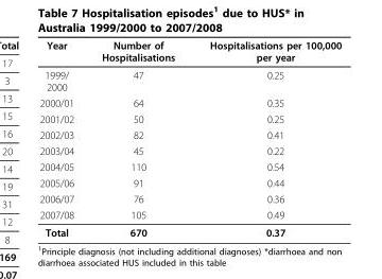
<table><thead><tr><td>Year</td><td>Number of Hospitalisations</td><td>Hospitalisations per 100,000 per year</td></tr></thead><tbody><tr><td>1999/ 2000</td><td>47</td><td>0.25</td></tr><tr><td>2000/01</td><td>64</td><td>0.35</td></tr><tr><td>2001/02</td><td>50</td><td>0.25</td></tr><tr><td>2002/03</td><td>82</td><td>0.41</td></tr><tr><td>2003/04</td><td>45</td><td>0.22</td></tr><tr><td>2004/05</td><td>110</td><td>0.54</td></tr><tr><td>2005/06</td><td>91</td><td>0.44</td></tr><tr><td>2006/07</td><td>76</td><td>0.36</td></tr><tr><td>2007/08</td><td>105</td><td>0.49</td></tr><tr><td>Total</td><td>670</td><td>0.37</td></tr></tbody></table>